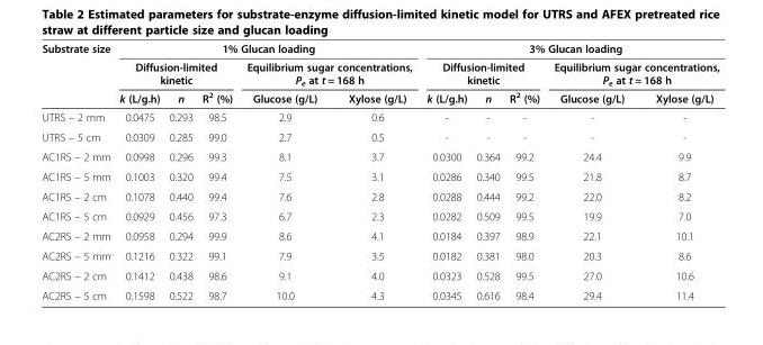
<table><thead><tr><td rowspan="3">Substrate size</td><td colspan="5">1% Glucan loading</td><td colspan="5">3% Glucan loading</td></tr><tr><td colspan="3">Diffusion-limited kinetic</td><td colspan="2">Equilibrium sugar concentrations, P<sub>e</sub> at t = 168 h</td><td colspan="3">Diffusion-limited kinetic</td><td colspan="2">Equilibrium sugar concentrations, P<sub>e</sub> at t = 168 h</td></tr><tr><td>k (L/g.h)</td><td>n</td><td>R<sup>2</sup> (%)</td><td>Glucose (g/L)</td><td>Xylose (g/L)</td><td>k (L/g.h)</td><td>n</td><td>R<sup>2</sup> (%)</td><td>Glucose (g/L)</td><td>Xylose (g/L)</td></tr></thead><tbody><tr><td>UTRS – 2 mm</td><td>0.0475</td><td>0.293</td><td>98.5</td><td>2.9</td><td>0.6</td><td>-</td><td>-</td><td>-</td><td>-</td><td>-</td></tr><tr><td>UTRS – 5 cm</td><td>0.0309</td><td>0.285</td><td>99.0</td><td>2.7</td><td>0.5</td><td>-</td><td>-</td><td>-</td><td>-</td><td>-</td></tr><tr><td>AC1RS – 2 mm</td><td>0.0998</td><td>0.296</td><td>99.3</td><td>8.1</td><td>3.7</td><td>0.0300</td><td>0.364</td><td>99.2</td><td>24.4</td><td>9.9</td></tr><tr><td>AC1RS – 5 mm</td><td>0.1003</td><td>0.320</td><td>99.4</td><td>7.5</td><td>3.1</td><td>0.0286</td><td>0.340</td><td>99.5</td><td>21.8</td><td>8.7</td></tr><tr><td>AC1RS – 2 cm</td><td>0.1078</td><td>0.440</td><td>99.4</td><td>7.6</td><td>2.8</td><td>0.0288</td><td>0.444</td><td>99.2</td><td>22.0</td><td>8.2</td></tr><tr><td>AC1RS – 5 cm</td><td>0.0929</td><td>0.456</td><td>97.3</td><td>6.7</td><td>2.3</td><td>0.0282</td><td>0.509</td><td>99.5</td><td>19.9</td><td>7.0</td></tr><tr><td>AC2RS – 2 mm</td><td>0.0958</td><td>0.294</td><td>99.9</td><td>8.6</td><td>4.1</td><td>0.0184</td><td>0.397</td><td>98.9</td><td>22.1</td><td>10.1</td></tr><tr><td>AC2RS – 5 mm</td><td>0.1216</td><td>0.322</td><td>99.1</td><td>7.9</td><td>3.5</td><td>0.0182</td><td>0.381</td><td>98.0</td><td>20.3</td><td>8.6</td></tr><tr><td>AC2RS – 2 cm</td><td>0.1412</td><td>0.438</td><td>98.6</td><td>9.1</td><td>4.0</td><td>0.0323</td><td>0.528</td><td>99.5</td><td>27.0</td><td>10.6</td></tr><tr><td>AC2RS – 5 cm</td><td>0.1598</td><td>0.522</td><td>98.7</td><td>10.0</td><td>4.3</td><td>0.0345</td><td>0.616</td><td>98.4</td><td>29.4</td><td>11.4</td></tr></tbody></table>